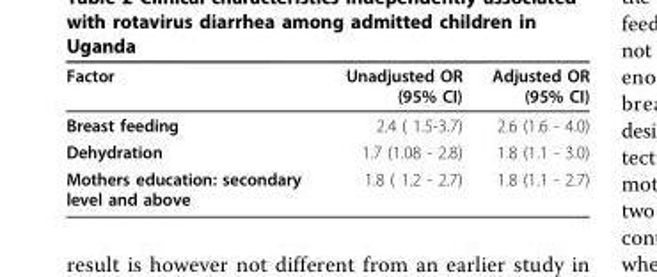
<table><thead><tr><td>Factor</td><td>Unadjusted OR (95% CI)</td><td>Adjusted OR (95% CI)</td></tr></thead><tbody><tr><td>Breast feeding</td><td>2.4 ( 1.5-3.7)</td><td>2.6 (1.6 - 4.0)</td></tr><tr><td>Dehydration</td><td>1.7 (1.08 - 2.8)</td><td>1.8 (1.1 - 3.0)</td></tr><tr><td>Mothers education: secondary level and above</td><td>1.8 ( 1.2 - 2.7)</td><td>1.8 (1.1 - 2.7)</td></tr></tbody></table>